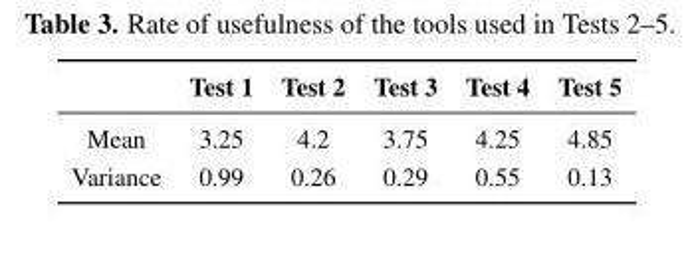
<table><thead><tr><td></td><td>Test 1</td><td>Test 2</td><td>Test 3</td><td>Test 4</td><td>Test 5</td></tr></thead><tbody><tr><td>Mean</td><td>3.25</td><td>4.2</td><td>3.75</td><td>4.25</td><td>4.85</td></tr><tr><td>Variance</td><td>0.99</td><td>0.26</td><td>0.29</td><td>0.55</td><td>0.13</td></tr></tbody></table>